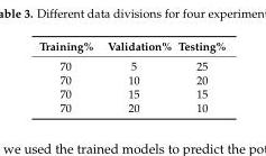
<table><thead><tr><td>Training%</td><td>Validation%</td><td>Testing%</td></tr></thead><tbody><tr><td>70</td><td>5</td><td>25</td></tr><tr><td>70</td><td>10</td><td>20</td></tr><tr><td>70</td><td>15</td><td>15</td></tr><tr><td>70</td><td>20</td><td>10</td></tr></tbody></table>